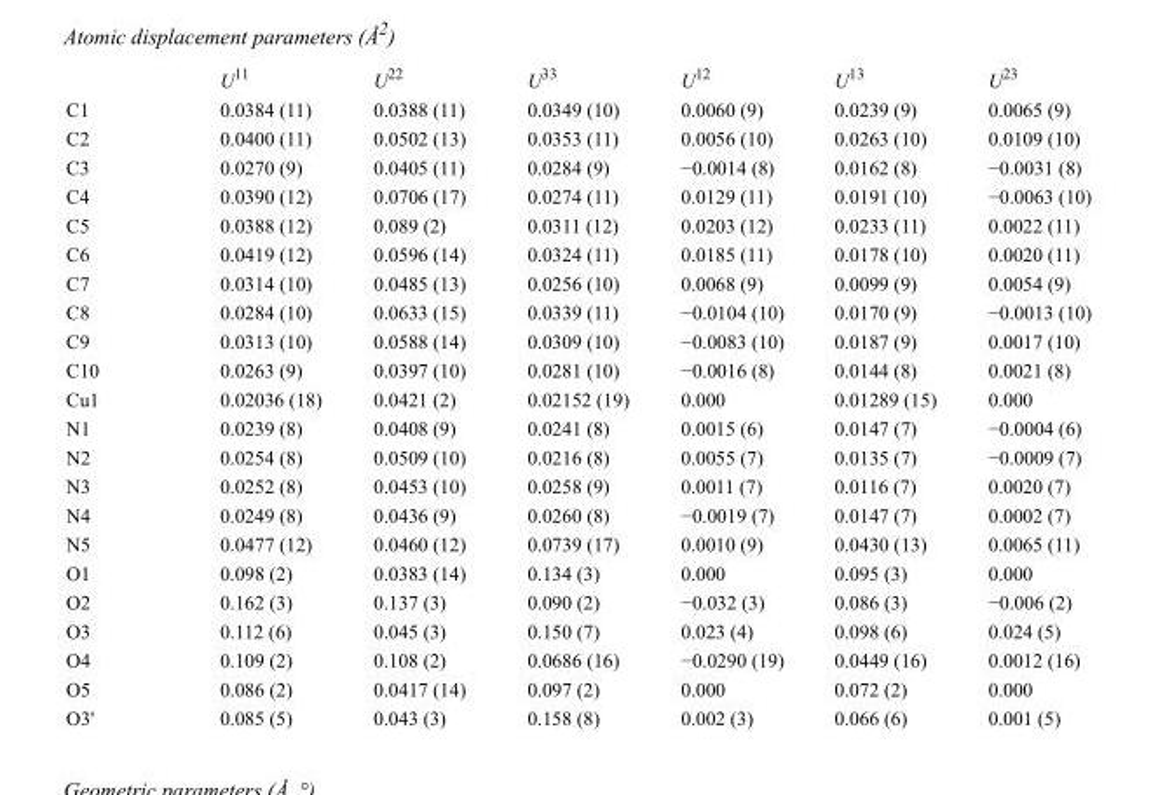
<table><thead><tr><td></td><td>U<sup>11</sup></td><td>U<sup>22</sup></td><td>U<sup>33</sup></td><td>U<sup>12</sup></td><td>U<sup>13</sup></td><td>U<sup>23</sup></td></tr></thead><tbody><tr><td>C1</td><td>0.0384 (11)</td><td>0.0388 (11)</td><td>0.0349 (10)</td><td>0.0060 (9)</td><td>0.0239 (9)</td><td>0.0065 (9)</td></tr><tr><td>C2</td><td>0.0400 (11)</td><td>0.0502 (13)</td><td>0.0353 (11)</td><td>0.0056 (10)</td><td>0.0263 (10)</td><td>0.0109 (10)</td></tr><tr><td>C3</td><td>0.0270 (9)</td><td>0.0405 (11)</td><td>0.0284 (9)</td><td>−0.0014 (8)</td><td>0.0162 (8)</td><td>−0.0031 (8)</td></tr><tr><td>C4</td><td>0.0390 (12)</td><td>0.0706 (17)</td><td>0.0274 (11)</td><td>0.0129 (11)</td><td>0.0191 (10)</td><td>−0.0063 (10)</td></tr><tr><td>C5</td><td>0.0388 (12)</td><td>0.089 (2)</td><td>0.0311 (12)</td><td>0.0203 (12)</td><td>0.0233 (11)</td><td>0.0022 (11)</td></tr><tr><td>C6</td><td>0.0419 (12)</td><td>0.0596 (14)</td><td>0.0324 (11)</td><td>0.0185 (11)</td><td>0.0178 (10)</td><td>0.0020 (11)</td></tr><tr><td>C7</td><td>0.0314 (10)</td><td>0.0485 (13)</td><td>0.0256 (10)</td><td>0.0068 (9)</td><td>0.0099 (9)</td><td>0.0054 (9)</td></tr><tr><td>C8</td><td>0.0284 (10)</td><td>0.0633 (15)</td><td>0.0339 (11)</td><td>−0.0104 (10)</td><td>0.0170 (9)</td><td>−0.0013 (10)</td></tr><tr><td>C9</td><td>0.0313 (10)</td><td>0.0588 (14)</td><td>0.0309 (10)</td><td>−0.0083 (10)</td><td>0.0187 (9)</td><td>0.0017 (10)</td></tr><tr><td>C10</td><td>0.0263 (9)</td><td>0.0397 (10)</td><td>0.0281 (10)</td><td>−0.0016 (8)</td><td>0.0144 (8)</td><td>0.0021 (8)</td></tr><tr><td>Cu1</td><td>0.02036 (18)</td><td>0.0421 (2)</td><td>0.02152 (19)</td><td>0.000</td><td>0.01289 (15)</td><td>0.000</td></tr><tr><td>N1</td><td>0.0239 (8)</td><td>0.0408 (9)</td><td>0.0241 (8)</td><td>0.0015 (6)</td><td>0.0147 (7)</td><td>−0.0004 (6)</td></tr><tr><td>N2</td><td>0.0254 (8)</td><td>0.0509 (10)</td><td>0.0216 (8)</td><td>0.0055 (7)</td><td>0.0135 (7)</td><td>−0.0009 (7)</td></tr><tr><td>N3</td><td>0.0252 (8)</td><td>0.0453 (10)</td><td>0.0258 (9)</td><td>0.0011 (7)</td><td>0.0116 (7)</td><td>0.0020 (7)</td></tr><tr><td>N4</td><td>0.0249 (8)</td><td>0.0436 (9)</td><td>0.0260 (8)</td><td>−0.0019 (7)</td><td>0.0147 (7)</td><td>0.0002 (7)</td></tr><tr><td>N5</td><td>0.0477 (12)</td><td>0.0460 (12)</td><td>0.0739 (17)</td><td>0.0010 (9)</td><td>0.0430 (13)</td><td>0.0065 (11)</td></tr><tr><td>O1</td><td>0.098 (2)</td><td>0.0383 (14)</td><td>0.134 (3)</td><td>0.000</td><td>0.095 (3)</td><td>0.000</td></tr><tr><td>O2</td><td>0.162 (3)</td><td>0.137 (3)</td><td>0.090 (2)</td><td>−0.032 (3)</td><td>0.086 (3)</td><td>−0.006 (2)</td></tr><tr><td>O3</td><td>0.112 (6)</td><td>0.045 (3)</td><td>0.150 (7)</td><td>0.023 (4)</td><td>0.098 (6)</td><td>0.024 (5)</td></tr><tr><td>O4</td><td>0.109 (2)</td><td>0.108 (2)</td><td>0.0686 (16)</td><td>−0.0290 (19)</td><td>0.0449 (16)</td><td>0.0012 (16)</td></tr><tr><td>O5</td><td>0.086 (2)</td><td>0.0417 (14)</td><td>0.097 (2)</td><td>0.000</td><td>0.072 (2)</td><td>0.000</td></tr><tr><td>O3&#x27;</td><td>0.085 (5)</td><td>0.043 (3)</td><td>0.158 (8)</td><td>0.002 (3)</td><td>0.066 (6)</td><td>0.001 (5)</td></tr></tbody></table>